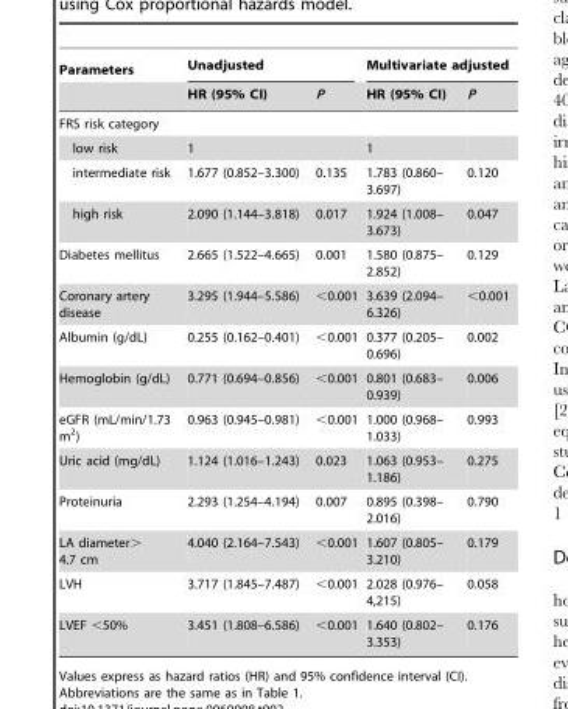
<table><thead><tr><td rowspan="2">Parameters</td><td colspan="2">Unadjusted</td><td colspan="2">Multivariate adjusted</td></tr><tr><td>HR (95% CI)</td><td>P</td><td>HR (95% CI)</td><td>P</td></tr></thead><tbody><tr><td colspan="5">FRS risk category</td></tr><tr><td>low risk</td><td>1</td><td></td><td>1</td><td></td></tr><tr><td>intermediate risk</td><td>1.677 (0.852–3.300)</td><td>0.135</td><td>1.783 (0.860– 3.697)</td><td>0.120</td></tr><tr><td>high risk</td><td>2.090 (1.144–3.818)</td><td>0.017</td><td>1.924 (1.008– 3.673)</td><td>0.047</td></tr><tr><td>Diabetes mellitus</td><td>2.665 (1.522–4.665)</td><td>0.001</td><td>1.580 (0.875– 2.852)</td><td>0.129</td></tr><tr><td>Coronary artery disease</td><td>3.295 (1.944–5.586)</td><td>&lt;0.001</td><td>3.639 (2.094– 6.326)</td><td>&lt;0.001</td></tr><tr><td>Albumin (g/dL)</td><td>0.255 (0.162–0.401)</td><td>&lt;0.001</td><td>0.377 (0.205– 0.696)</td><td>0.002</td></tr><tr><td>Hemoglobin (g/dL)</td><td>0.771 (0.694–0.856)</td><td>&lt;0.001</td><td>0.801 (0.683– 0.939)</td><td>0.006</td></tr><tr><td>eGFR (mL/min/1.73 m<sup>2</sup>)</td><td>0.963 (0.945–0.981)</td><td>&lt;0.001</td><td>1.000 (0.968– 1.033)</td><td>0.993</td></tr><tr><td>Uric acid (mg/dL)</td><td>1.124 (1.016–1.243)</td><td>0.023</td><td>1.063 (0.953– 1.186)</td><td>0.275</td></tr><tr><td>Proteinuria</td><td>2.293 (1.254–4.194)</td><td>0.007</td><td>0.895 (0.398– 2.016)</td><td>0.790</td></tr><tr><td>LA diameter&gt; 4.7 cm</td><td>4.040 (2.164–7.543)</td><td>&lt;0.001</td><td>1.607 (0.805– 3.210)</td><td>0.179</td></tr><tr><td>LVH</td><td>3.717 (1.845–7.487)</td><td>&lt;0.001</td><td>2.028 (0.976– 4,215)</td><td>0.058</td></tr><tr><td>LVEF &lt;50%</td><td>3.451 (1.808–6.586)</td><td>&lt;0.001</td><td>1.640 (0.802– 3.353)</td><td>0.176</td></tr></tbody></table>